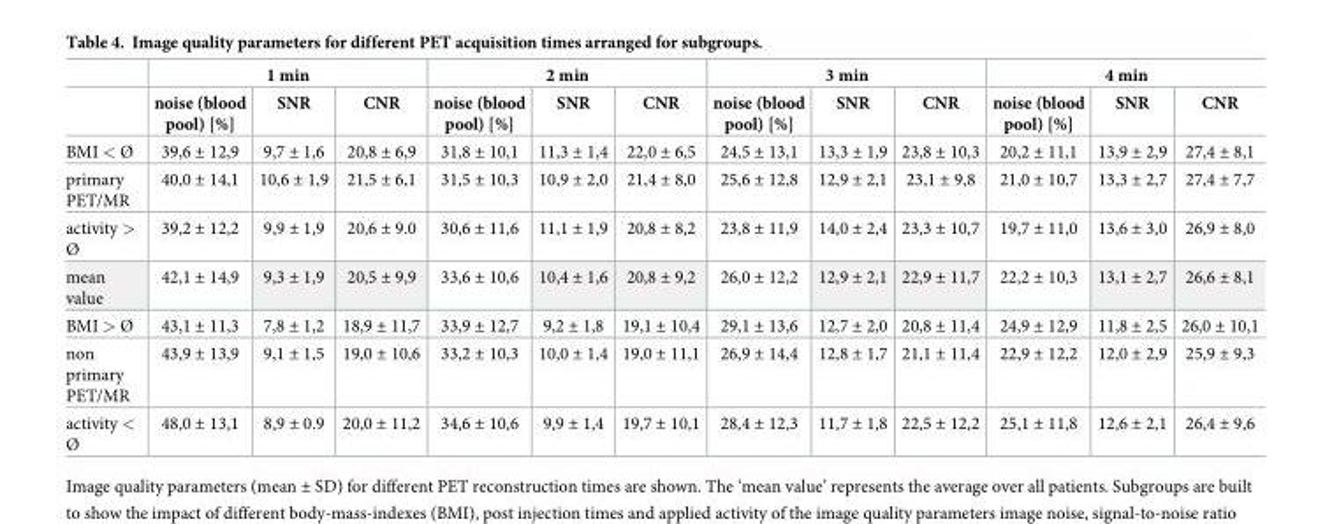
<table><thead><tr><td rowspan="2"></td><td colspan="3">1 min</td><td colspan="3">2 min</td><td colspan="3">3 min</td><td colspan="3">4 min</td></tr><tr><td>noise (blood pool) [%]</td><td>SNR</td><td>CNR</td><td>noise (blood pool) [%]</td><td>SNR</td><td>CNR</td><td>noise (blood pool) [%]</td><td>SNR</td><td>CNR</td><td>noise (blood pool) [%]</td><td>SNR</td><td>CNR</td></tr></thead><tbody><tr><td>BMI &lt; Ø</td><td>39,6 ± 12,9</td><td>9,7 ± 1,6</td><td>20,8 ± 6,9</td><td>31,8 ± 10,1</td><td>11,3 ± 1,4</td><td>22,0 ± 6,5</td><td>24,5 ± 13,1</td><td>13,3 ± 1,9</td><td>23,8 ± 10,3</td><td>20,2 ± 11,1</td><td>13,9 ± 2,9</td><td>27,4 ± 8,1</td></tr><tr><td>primary PET/MR</td><td>40,0 ± 14,1</td><td>10,6 ± 1,9</td><td>21,5 ± 6,1</td><td>31,5 ± 10,3</td><td>10,9 ± 2,0</td><td>21,4 ± 8,0</td><td>25,6 ± 12,8</td><td>12,9 ± 2,1</td><td>23,1 ± 9,8</td><td>21,0 ± 10,7</td><td>13,3 ± 2,7</td><td>27,4 ± 7,7</td></tr><tr><td>activity &gt; Ø</td><td>39,2 ± 12,2</td><td>9,9 ± 1,9</td><td>20,6 ± 9.0</td><td>30,6 ± 11,6</td><td>11,1 ± 1,9</td><td>20,8 ± 8,2</td><td>23,8 ± 11,9</td><td>14,0 ± 2,4</td><td>23,3 ± 10,7</td><td>19,7 ± 11,0</td><td>13,6 ± 3,0</td><td>26,9 ± 8,0</td></tr><tr><td>mean value</td><td>42,1 ± 14,9</td><td>9,3 ± 1,9</td><td>20,5 ± 9,9</td><td>33,6 ± 10,6</td><td>10,4 ± 1,6</td><td>20,8 ± 9,2</td><td>26,0 ± 12,2</td><td>12,9 ± 2,1</td><td>22,9 ± 11,7</td><td>22,2 ± 10,3</td><td>13,1 ± 2,7</td><td>26,6 ± 8,1</td></tr><tr><td>BMI &gt; Ø</td><td>43,1 ± 11,3</td><td>7,8 ± 1,2</td><td>18,9 ± 11,7</td><td>33,9 ± 12,7</td><td>9,2 ± 1,8</td><td>19,1 ± 10,4</td><td>29,1 ± 13,6</td><td>12,7 ± 2,0</td><td>20,8 ± 11,4</td><td>24,9 ± 12,9</td><td>11,8 ± 2,5</td><td>26,0 ± 10,1</td></tr><tr><td>non primary PET/MR</td><td>43,9 ± 13,9</td><td>9,1 ± 1,5</td><td>19,0 ± 10,6</td><td>33,2 ± 10,3</td><td>10,0 ± 1,4</td><td>19,0 ± 11,1</td><td>26,9 ± 14,4</td><td>12,8 ± 1,7</td><td>21,1 ± 11,4</td><td>22,9 ± 12,2</td><td>12,0 ± 2,9</td><td>25,9 ± 9,3</td></tr><tr><td>activity &lt; Ø</td><td>48,0 ± 13,1</td><td>8,9 ± 0.9</td><td>20,0 ± 11,2</td><td>34,6 ± 10,6</td><td>9,9 ± 1,4</td><td>19,7 ± 10,1</td><td>28,4 ± 12,3</td><td>11,7 ± 1,8</td><td>22,5 ± 12,2</td><td>25,1 ± 11,8</td><td>12,6 ± 2,1</td><td>26,4 ± 9,6</td></tr></tbody></table>